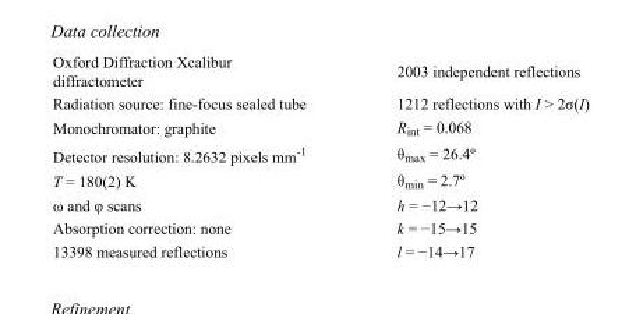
<table><tbody><tr><td>Oxford Diffraction Xcalibur diffractometer</td><td>2003 independent reflections</td></tr><tr><td>Radiation source: fine-focus sealed tube</td><td>1212 reflections with I &gt; 2σ(I)</td></tr><tr><td>Monochromator: graphite</td><td>R<sub>int</sub> = 0.068</td></tr><tr><td>Detector resolution: 8.2632 pixels mm<sup>-1</sup></td><td>θ<sub>max</sub> = 26.4º</td></tr><tr><td>T = 180(2) K</td><td>θ<sub>min</sub> = 2.7º</td></tr><tr><td>ω and φ scans</td><td>h = −12→12</td></tr><tr><td>Absorption correction: none</td><td>k = −15→15</td></tr><tr><td>13398 measured reflections</td><td>l = −14→17</td></tr></tbody></table>